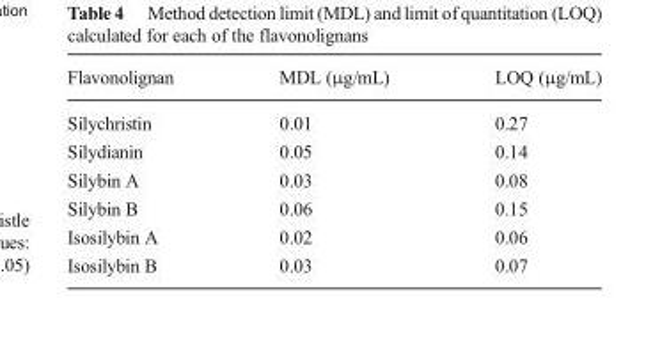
<table><thead><tr><td>Flavonolignan</td><td>MDL (μg/mL)</td><td>LOQ (μg/mL)</td></tr></thead><tbody><tr><td>Silychristin</td><td>0.01</td><td>0.27</td></tr><tr><td>Silydianin</td><td>0.05</td><td>0.14</td></tr><tr><td>Silybin A</td><td>0.03</td><td>0.08</td></tr><tr><td>Silybin B</td><td>0.06</td><td>0.15</td></tr><tr><td>Isosilybin A</td><td>0.02</td><td>0.06</td></tr><tr><td>Isosilybin B</td><td>0.03</td><td>0.07</td></tr></tbody></table>